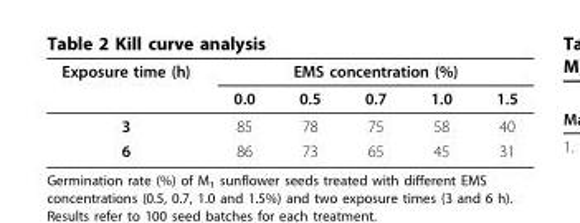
<table><thead><tr><td rowspan="2">Exposure time (h)</td><td colspan="5">EMS concentration (%)</td></tr><tr><td>0.0</td><td>0.5</td><td>0.7</td><td>1.0</td><td>1.5</td></tr></thead><tbody><tr><td>3</td><td>85</td><td>78</td><td>75</td><td>58</td><td>40</td></tr><tr><td>6</td><td>86</td><td>73</td><td>65</td><td>45</td><td>31</td></tr></tbody></table>